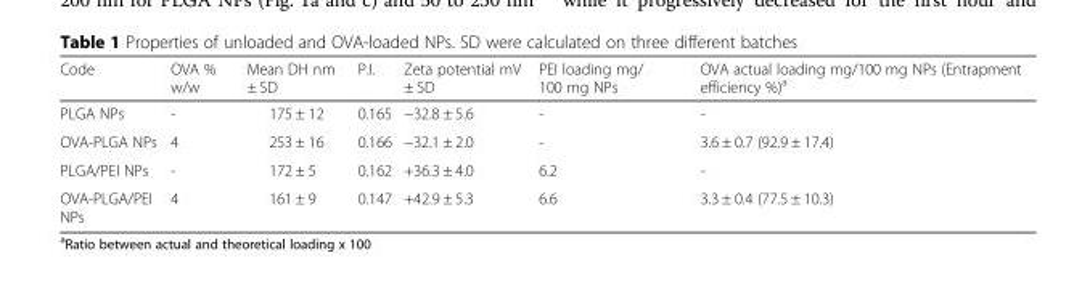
<table><thead><tr><td>Code</td><td>OVA % w/w</td><td>Mean DH nm ± SD</td><td>P.I.</td><td>Zeta potential mV ± SD</td><td>PEI loading mg/ 100 mg NPs</td><td>OVA actual loading mg/100 mg NPs (Entrapment efficiency %)<sup>a</sup></td></tr></thead><tbody><tr><td>PLGA NPs</td><td>-</td><td>175 ± 12</td><td>0.165</td><td>−32.8 ± 5.6</td><td>-</td><td>-</td></tr><tr><td>OVA-PLGA NPs</td><td>4</td><td>253 ± 16</td><td>0.166</td><td>−32.1 ± 2.0</td><td>-</td><td>3.6 ± 0.7 (92.9 ± 17.4)</td></tr><tr><td>PLGA/PEI NPs</td><td>-</td><td>172 ± 5</td><td>0.162</td><td>+36.3 ± 4.0</td><td>6.2</td><td>-</td></tr><tr><td>OVA-PLGA/PEI NPs</td><td>4</td><td>161 ± 9</td><td>0.147</td><td>+42.9 ± 5.3</td><td>6.6</td><td>3.3 ± 0.4 (77.5 ± 10.3)</td></tr></tbody></table>